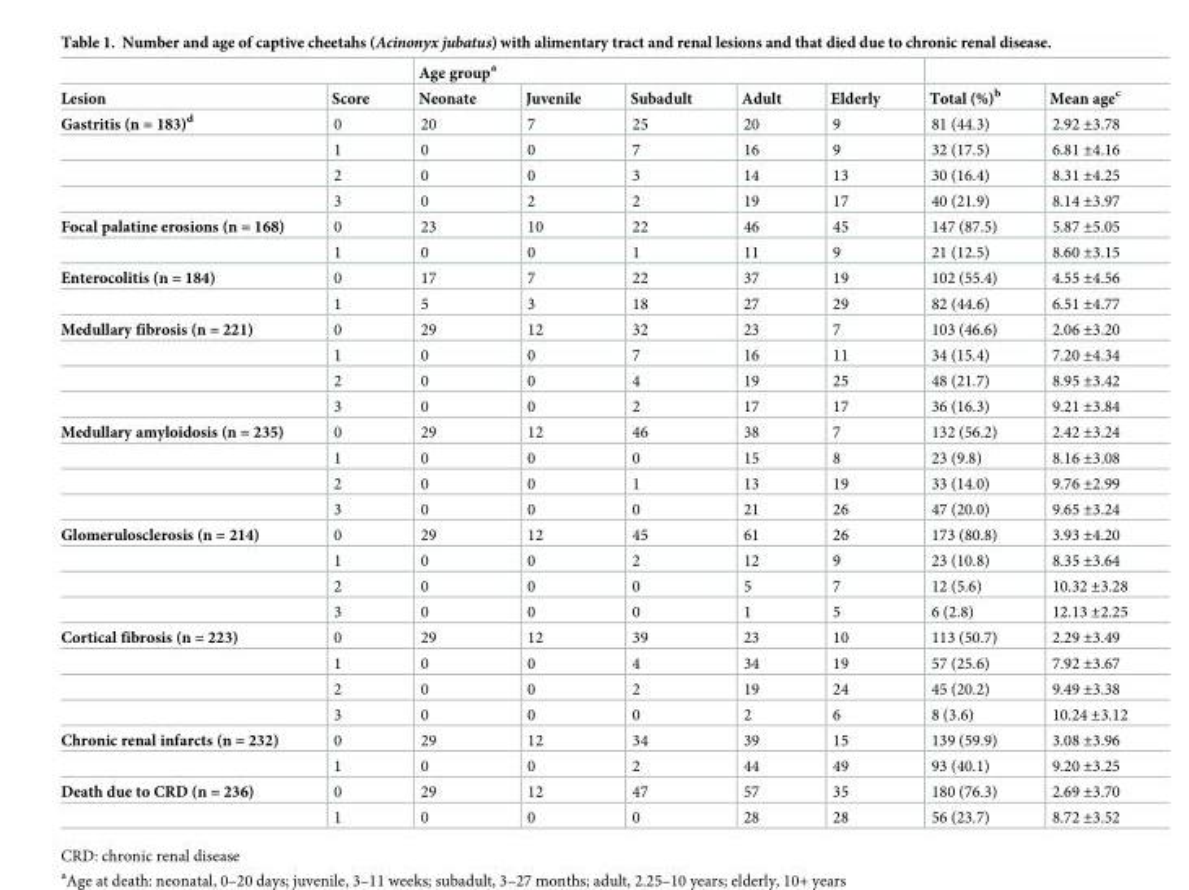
<table><thead><tr><td rowspan="2">Lesion</td><td rowspan="2">Score</td><td colspan="5">Age group<sup>a</sup></td><td rowspan="2">Total (%)<sup>b</sup></td><td rowspan="2">Mean age<sup>c</sup></td></tr><tr><td>Neonate</td><td>Juvenile</td><td>Subadult</td><td>Adult</td><td>Elderly</td></tr></thead><tbody><tr><td rowspan="4">Gastritis (n = 183)<sup>d</sup></td><td>0</td><td>20</td><td>7</td><td>25</td><td>20</td><td>9</td><td>81 (44.3)</td><td>2.92 ±3.78</td></tr><tr><td>1</td><td>0</td><td>0</td><td>7</td><td>16</td><td>9</td><td>32 (17.5)</td><td>6.81 ±4.16</td></tr><tr><td>2</td><td>0</td><td>0</td><td>3</td><td>14</td><td>13</td><td>30 (16.4)</td><td>8.31 ±4.25</td></tr><tr><td>3</td><td>0</td><td>2</td><td>2</td><td>19</td><td>17</td><td>40 (21.9)</td><td>8.14 ±3.97</td></tr><tr><td rowspan="2">Focal palatine erosions (n = 168)</td><td>0</td><td>23</td><td>10</td><td>22</td><td>46</td><td>45</td><td>147 (87.5)</td><td>5.87 ±5.05</td></tr><tr><td>1</td><td>0</td><td>0</td><td>1</td><td>11</td><td>9</td><td>21 (12.5)</td><td>8.60 ±3.15</td></tr><tr><td rowspan="2">Enterocolitis (n = 184)</td><td>0</td><td>17</td><td>7</td><td>22</td><td>37</td><td>19</td><td>102 (55.4)</td><td>4.55 ±4.56</td></tr><tr><td>1</td><td>5</td><td>3</td><td>18</td><td>27</td><td>29</td><td>82 (44.6)</td><td>6.51 ±4.77</td></tr><tr><td rowspan="4">Medullary fibrosis (n = 221)</td><td>0</td><td>29</td><td>12</td><td>32</td><td>23</td><td>7</td><td>103 (46.6)</td><td>2.06 ±3.20</td></tr><tr><td>1</td><td>0</td><td>0</td><td>7</td><td>16</td><td>11</td><td>34 (15.4)</td><td>7.20 ±4.34</td></tr><tr><td>2</td><td>0</td><td>0</td><td>4</td><td>19</td><td>25</td><td>48 (21.7)</td><td>8.95 ±3.42</td></tr><tr><td>3</td><td>0</td><td>0</td><td>2</td><td>17</td><td>17</td><td>36 (16.3)</td><td>9.21 ±3.84</td></tr><tr><td rowspan="4">Medullary amyloidosis (n = 235)</td><td>0</td><td>29</td><td>12</td><td>46</td><td>38</td><td>7</td><td>132 (56.2)</td><td>2.42 ±3.24</td></tr><tr><td>1</td><td>0</td><td>0</td><td>0</td><td>15</td><td>8</td><td>23 (9.8)</td><td>8.16 ±3.08</td></tr><tr><td>2</td><td>0</td><td>0</td><td>1</td><td>13</td><td>19</td><td>33 (14.0)</td><td>9.76 ±2.99</td></tr><tr><td>3</td><td>0</td><td>0</td><td>0</td><td>21</td><td>26</td><td>47 (20.0)</td><td>9.65 ±3.24</td></tr><tr><td rowspan="4">Glomerulosclerosis (n = 214)</td><td>0</td><td>29</td><td>12</td><td>45</td><td>61</td><td>26</td><td>173 (80.8)</td><td>3.93 ±4.20</td></tr><tr><td>1</td><td>0</td><td>0</td><td>2</td><td>12</td><td>9</td><td>23 (10.8)</td><td>8.35 ±3.64</td></tr><tr><td>2</td><td>0</td><td>0</td><td>0</td><td>5</td><td>7</td><td>12 (5.6)</td><td>10.32 ±3.28</td></tr><tr><td>3</td><td>0</td><td>0</td><td>0</td><td>1</td><td>5</td><td>6 (2.8)</td><td>12.13 ±2.25</td></tr><tr><td rowspan="4">Cortical fibrosis (n = 223)</td><td>0</td><td>29</td><td>12</td><td>39</td><td>23</td><td>10</td><td>113 (50.7)</td><td>2.29 ±3.49</td></tr><tr><td>1</td><td>0</td><td>0</td><td>4</td><td>34</td><td>19</td><td>57 (25.6)</td><td>7.92 ±3.67</td></tr><tr><td>2</td><td>0</td><td>0</td><td>2</td><td>19</td><td>24</td><td>45 (20.2)</td><td>9.49 ±3.38</td></tr><tr><td>3</td><td>0</td><td>0</td><td>0</td><td>2</td><td>6</td><td>8 (3.6)</td><td>10.24 ±3.12</td></tr><tr><td rowspan="2">Chronic renal infarcts (n = 232)</td><td>0</td><td>29</td><td>12</td><td>34</td><td>39</td><td>15</td><td>139 (59.9)</td><td>3.08 ±3.96</td></tr><tr><td>1</td><td>0</td><td>0</td><td>2</td><td>44</td><td>49</td><td>93 (40.1)</td><td>9.20 ±3.25</td></tr><tr><td rowspan="2">Death due to CRD (n = 236)</td><td>0</td><td>29</td><td>12</td><td>47</td><td>57</td><td>35</td><td>180 (76.3)</td><td>2.69 ±3.70</td></tr><tr><td>1</td><td>0</td><td>0</td><td>0</td><td>28</td><td>28</td><td>56 (23.7)</td><td>8.72 ±3.52</td></tr></tbody></table>